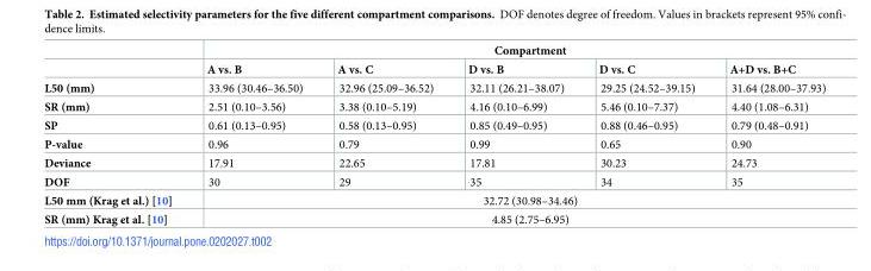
<table><thead><tr><td rowspan="2"></td><td colspan="5">Compartment</td></tr><tr><td>A vs. B</td><td>A vs. C</td><td>D vs. B</td><td>D vs. C</td><td>A+D vs. B+C</td></tr></thead><tbody><tr><td>L50 (mm)</td><td>33.96 (30.46–36.50)</td><td>32.96 (25.09–36.52)</td><td>32.11 (26.21–38.07)</td><td>29.25 (24.52–39.15)</td><td>31.64 (28.00–37.93)</td></tr><tr><td>SR (mm)</td><td>2.51 (0.10–3.56)</td><td>3.38 (0.10–5.19)</td><td>4.16 (0.10–6.99)</td><td>5.46 (0.10–7.37)</td><td>4.40 (1.08–6.31)</td></tr><tr><td>SP</td><td>0.61 (0.13–0.95)</td><td>0.58 (0.13–0.95)</td><td>0.85 (0.49–0.95)</td><td>0.88 (0.46–0.95)</td><td>0.79 (0.48–0.91)</td></tr><tr><td>P-value</td><td>0.96</td><td>0.79</td><td>0.99</td><td>0.65</td><td>0.90</td></tr><tr><td>Deviance</td><td>17.91</td><td>22.65</td><td>17.81</td><td>30.23</td><td>24.73</td></tr><tr><td>DOF</td><td>30</td><td>29</td><td>35</td><td>34</td><td>35</td></tr><tr><td>L50 mm (Krag et al.) [10]</td><td colspan="5">32.72 (30.98–34.46)</td></tr><tr><td>SR (mm) Krag et al. [10]</td><td colspan="5">4.85 (2.75–6.95)</td></tr></tbody></table>